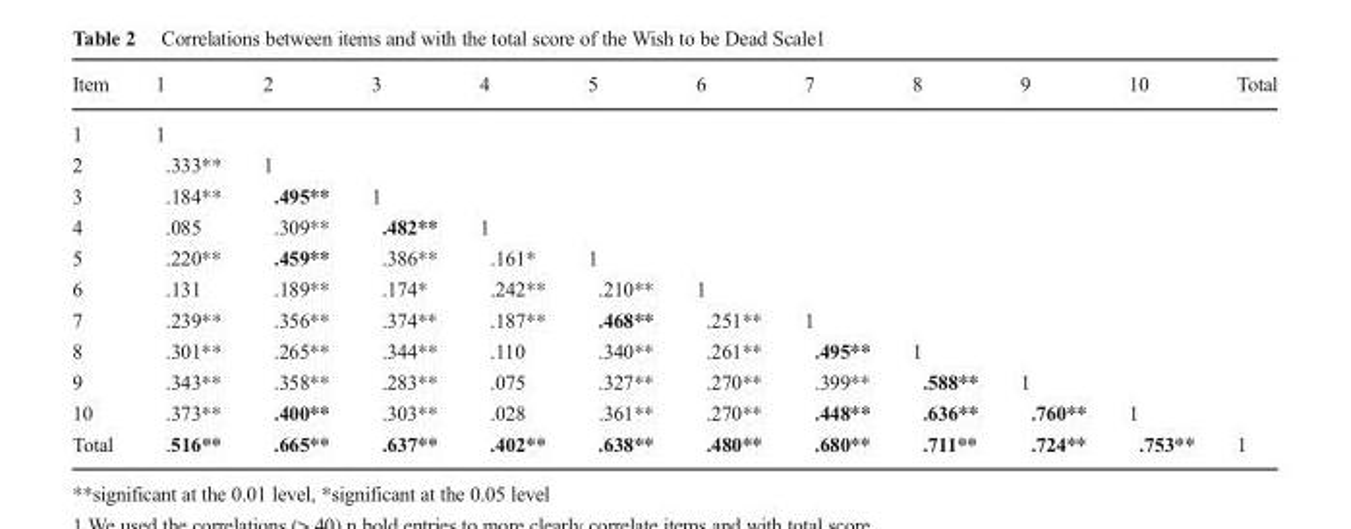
<table><thead><tr><td>Item</td><td>1</td><td>2</td><td>3</td><td>4</td><td>5</td><td>6</td><td>7</td><td>8</td><td>9</td><td>10</td><td>Total</td></tr></thead><tbody><tr><td>1</td><td>1</td><td></td><td></td><td></td><td></td><td></td><td></td><td></td><td></td><td></td><td></td></tr><tr><td>2</td><td>.333**</td><td>1</td><td></td><td></td><td></td><td></td><td></td><td></td><td></td><td></td><td></td></tr><tr><td>3</td><td>.184**</td><td>.495**</td><td>1</td><td></td><td></td><td></td><td></td><td></td><td></td><td></td><td></td></tr><tr><td>4</td><td>.085</td><td>.309**</td><td>.482**</td><td>1</td><td></td><td></td><td></td><td></td><td></td><td></td><td></td></tr><tr><td>5</td><td>.220**</td><td>.459**</td><td>.386**</td><td>.161*</td><td>1</td><td></td><td></td><td></td><td></td><td></td><td></td></tr><tr><td>6</td><td>.131</td><td>.189**</td><td>.174*</td><td>.242**</td><td>.210**</td><td>1</td><td></td><td></td><td></td><td></td><td></td></tr><tr><td>7</td><td>.239**</td><td>.356**</td><td>.374**</td><td>.187**</td><td>.468**</td><td>.251**</td><td>1</td><td></td><td></td><td></td><td></td></tr><tr><td>8</td><td>.301**</td><td>.265**</td><td>.344**</td><td>.110</td><td>.340**</td><td>.261**</td><td>.495**</td><td>1</td><td></td><td></td><td></td></tr><tr><td>9</td><td>.343**</td><td>.358**</td><td>.283**</td><td>.075</td><td>.327**</td><td>.270**</td><td>.399**</td><td>.588**</td><td>1</td><td></td><td></td></tr><tr><td>10</td><td>.373**</td><td>.400**</td><td>.303**</td><td>.028</td><td>.361**</td><td>.270**</td><td>.448**</td><td>.636**</td><td>.760**</td><td>1</td><td></td></tr><tr><td>Total</td><td>.516**</td><td>.665**</td><td>.637**</td><td>.402**</td><td>.638**</td><td>.480**</td><td>.680**</td><td>.711**</td><td>.724**</td><td>.753**</td><td>1</td></tr></tbody></table>